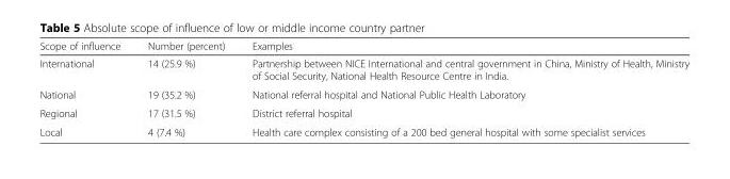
<table><thead><tr><td>Scope of influence</td><td>Number (percent)</td><td>Examples</td></tr></thead><tbody><tr><td>International</td><td>14 (25.9 %)</td><td>Partnership between NICE International and central government in China, Ministry of Health, Ministry of Social Security, National Health Resource Centre in India.</td></tr><tr><td>National</td><td>19 (35.2 %)</td><td>National referral hospital and National Public Health Laboratory</td></tr><tr><td>Regional</td><td>17 (31.5 %)</td><td>District referral hospital</td></tr><tr><td>Local</td><td>4 (7.4 %)</td><td>Health care complex consisting of a 200 bed general hospital with some specialist services</td></tr></tbody></table>